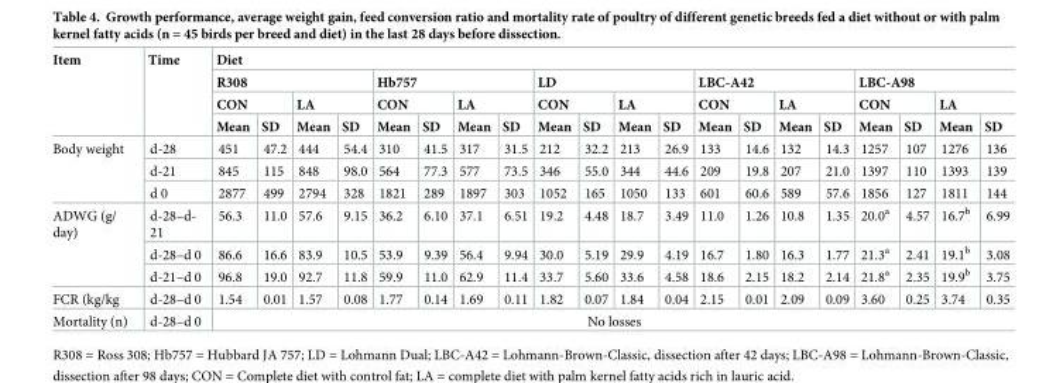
<table><thead><tr><td rowspan="4">Item</td><td rowspan="4">Time</td><td colspan="20">Diet</td></tr><tr><td colspan="4">R308</td><td colspan="4">Hb757</td><td colspan="4">LD</td><td colspan="4">LBC-A42</td><td colspan="4">LBC-A98</td></tr><tr><td colspan="2">CON</td><td colspan="2">LA</td><td colspan="2">CON</td><td colspan="2">LA</td><td colspan="2">CON</td><td colspan="2">LA</td><td colspan="2">CON</td><td colspan="2">LA</td><td colspan="2">CON</td><td colspan="2">LA</td></tr><tr><td>Mean</td><td>SD</td><td>Mean</td><td>SD</td><td>Mean</td><td>SD</td><td>Mean</td><td>SD</td><td>Mean</td><td>SD</td><td>Mean</td><td>SD</td><td>Mean</td><td>SD</td><td>Mean</td><td>SD</td><td>Mean</td><td>SD</td><td>Mean</td><td>SD</td></tr></thead><tbody><tr><td rowspan="3">Body weight</td><td>d-28</td><td>451</td><td>47.2</td><td>444</td><td>54.4</td><td>310</td><td>41.5</td><td>317</td><td>31.5</td><td>212</td><td>32.2</td><td>213</td><td>26.9</td><td>133</td><td>14.6</td><td>132</td><td>14.3</td><td>1257</td><td>107</td><td>1276</td><td>136</td></tr><tr><td>d-21</td><td>845</td><td>115</td><td>848</td><td>98.0</td><td>564</td><td>77.3</td><td>577</td><td>73.5</td><td>346</td><td>55.0</td><td>344</td><td>44.6</td><td>209</td><td>19.8</td><td>207</td><td>21.0</td><td>1397</td><td>110</td><td>1393</td><td>139</td></tr><tr><td>d 0</td><td>2877</td><td>499</td><td>2794</td><td>328</td><td>1821</td><td>289</td><td>1897</td><td>303</td><td>1052</td><td>165</td><td>1050</td><td>133</td><td>601</td><td>60.6</td><td>589</td><td>57.6</td><td>1856</td><td>127</td><td>1811</td><td>144</td></tr><tr><td rowspan="3">ADWG (g/ day)</td><td>d-28–d- 21</td><td>56.3</td><td>11.0</td><td>57.6</td><td>9.15</td><td>36.2</td><td>6.10</td><td>37.1</td><td>6.51</td><td>19.2</td><td>4.48</td><td>18.7</td><td>3.49</td><td>11.0</td><td>1.26</td><td>10.8</td><td>1.35</td><td>20.0<sup>a</sup></td><td>4.57</td><td>16.7<sup>b</sup></td><td>6.99</td></tr><tr><td>d-28–d 0</td><td>86.6</td><td>16.6</td><td>83.9</td><td>10.5</td><td>53.9</td><td>9.39</td><td>56.4</td><td>9.94</td><td>30.0</td><td>5.19</td><td>29.9</td><td>4.19</td><td>16.7</td><td>1.80</td><td>16.3</td><td>1.77</td><td>21.3<sup>a</sup></td><td>2.41</td><td>19.1<sup>b</sup></td><td>3.08</td></tr><tr><td>d-21–d 0</td><td>96.8</td><td>19.0</td><td>92.7</td><td>11.8</td><td>59.9</td><td>11.0</td><td>62.9</td><td>11.4</td><td>33.7</td><td>5.60</td><td>33.6</td><td>4.58</td><td>18.6</td><td>2.15</td><td>18.2</td><td>2.14</td><td>21.8<sup>a</sup></td><td>2.35</td><td>19.9<sup>b</sup></td><td>3.75</td></tr><tr><td>FCR (kg/kg</td><td>d-28–d 0</td><td>1.54</td><td>0.01</td><td>1.57</td><td>0.08</td><td>1.77</td><td>0.14</td><td>1.69</td><td>0.11</td><td>1.82</td><td>0.07</td><td>1.84</td><td>0.04</td><td>2.15</td><td>0.01</td><td>2.09</td><td>0.09</td><td>3.60</td><td>0.25</td><td>3.74</td><td>0.35</td></tr><tr><td>Mortality (n)</td><td>d-28–d 0</td><td colspan="20">No losses</td></tr></tbody></table>